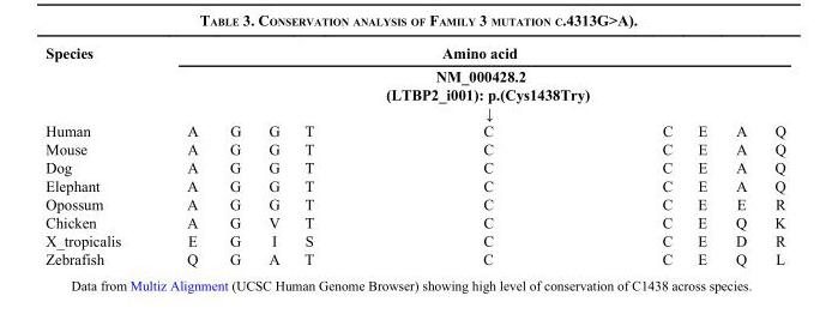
<table><thead><tr><td rowspan="2">Species</td><td></td><td></td><td></td><td></td><td>NM_000428.2 (LTBP2_i001): p.(Cys1438Try) ↓</td><td></td><td></td><td></td><td></td></tr><tr><td colspan="9">Amino acid</td></tr></thead><tbody><tr><td>Human</td><td>A</td><td>G</td><td>G</td><td>T</td><td>C</td><td>C</td><td>E</td><td>A</td><td>Q</td></tr><tr><td>Mouse</td><td>A</td><td>G</td><td>G</td><td>T</td><td>C</td><td>C</td><td>E</td><td>A</td><td>Q</td></tr><tr><td>Dog</td><td>A</td><td>G</td><td>G</td><td>T</td><td>C</td><td>C</td><td>E</td><td>A</td><td>Q</td></tr><tr><td>Elephant</td><td>A</td><td>G</td><td>G</td><td>T</td><td>C</td><td>C</td><td>E</td><td>A</td><td>Q</td></tr><tr><td>Opossum</td><td>A</td><td>G</td><td>G</td><td>T</td><td>C</td><td>C</td><td>E</td><td>E</td><td>R</td></tr><tr><td>Chicken</td><td>A</td><td>G</td><td>V</td><td>T</td><td>C</td><td>C</td><td>E</td><td>Q</td><td>K</td></tr><tr><td>X_tropicalis</td><td>E</td><td>G</td><td>I</td><td>S</td><td>C</td><td>C</td><td>E</td><td>D</td><td>R</td></tr><tr><td>Zebrafish</td><td>Q</td><td>G</td><td>A</td><td>T</td><td>C</td><td>C</td><td>E</td><td>Q</td><td>L</td></tr></tbody></table>